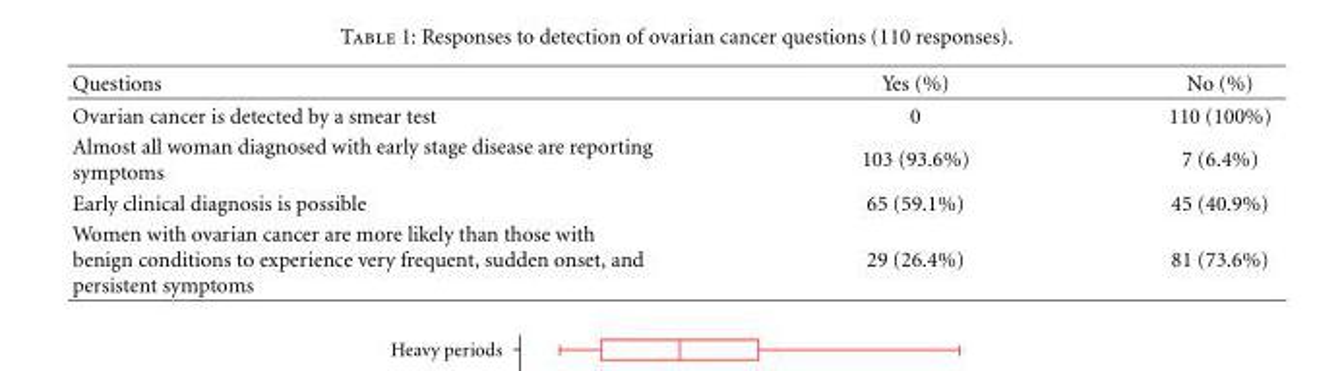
<table><thead><tr><td>Questions</td><td>Yes (%)</td><td>No (%)</td></tr></thead><tbody><tr><td>Ovarian cancer is detected by a smear test</td><td>0</td><td>110 (100%)</td></tr><tr><td>Almost all woman diagnosed with early stage disease are reporting symptoms</td><td>103 (93.6%)</td><td>7 (6.4%)</td></tr><tr><td>Early clinical diagnosis is possible</td><td>65 (59.1%)</td><td>45 (40.9%)</td></tr><tr><td>Women with ovarian cancer are more likely than those with benign conditions to experience very frequent, sudden onset, and persistent symptoms</td><td>29 (26.4%)</td><td>81 (73.6%)</td></tr></tbody></table>